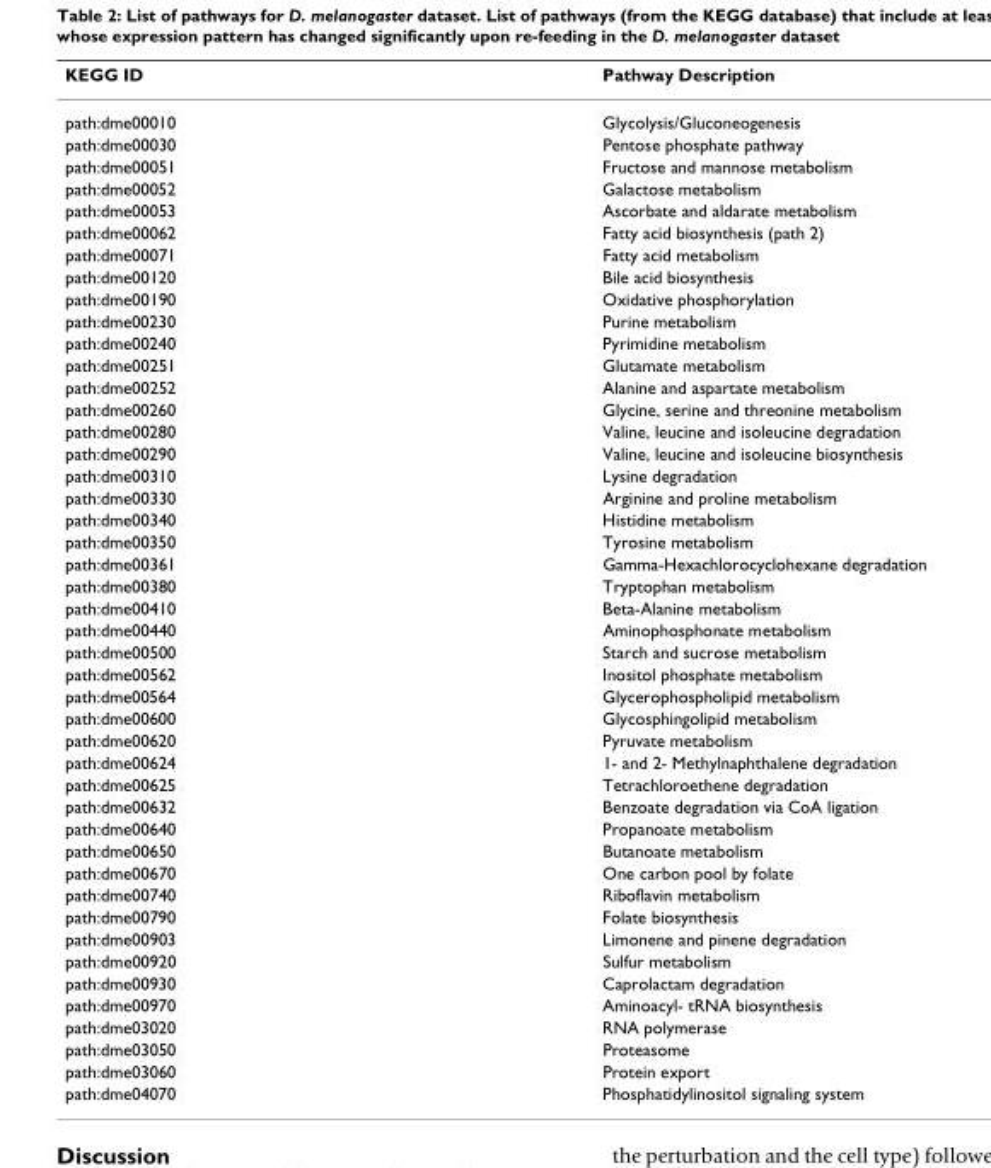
<table><thead><tr><td>KEGG ID</td><td>Pathway Description</td></tr></thead><tbody><tr><td>path:dme00010</td><td>Glycolysis/Gluconeogenesis</td></tr><tr><td>path:dme00030</td><td>Pentose phosphate pathway</td></tr><tr><td>path:dme00051</td><td>Fructose and mannose metabolism</td></tr><tr><td>path:dme00052</td><td>Galactose metabolism</td></tr><tr><td>path:dme00053</td><td>Ascorbate and aldarate metabolism</td></tr><tr><td>path:dme00062</td><td>Fatty acid biosynthesis (path 2)</td></tr><tr><td>path:dme00071</td><td>Fatty acid metabolism</td></tr><tr><td>path:dme00120</td><td>Bile acid biosynthesis</td></tr><tr><td>path:dme00190</td><td>Oxidative phosphorylation</td></tr><tr><td>path:dme00230</td><td>Purine metabolism</td></tr><tr><td>path:dme00240</td><td>Pyrimidine metabolism</td></tr><tr><td>path:dme00251</td><td>Glutamate metabolism</td></tr><tr><td>path:dme00252</td><td>Alanine and aspartate metabolism</td></tr><tr><td>path:dme00260</td><td>Glycine, serine and threonine metabolism</td></tr><tr><td>path:dme00280</td><td>Valine, leucine and isoleucine degradation</td></tr><tr><td>path:dme00290</td><td>Valine, leucine and isoleucine biosynthesis</td></tr><tr><td>path:dme00310</td><td>Lysine degradation</td></tr><tr><td>path:dme00330</td><td>Arginine and proline metabolism</td></tr><tr><td>path:dme00340</td><td>Histidine metabolism</td></tr><tr><td>path:dme00350</td><td>Tyrosine metabolism</td></tr><tr><td>path:dme00361</td><td>Gamma-Hexachlorocyclohexane degradation</td></tr><tr><td>path:dme00380</td><td>Tryptophan metabolism</td></tr><tr><td>path:dme00410</td><td>Beta-Alanine metabolism</td></tr><tr><td>path:dme00440</td><td>Aminophosphonate metabolism</td></tr><tr><td>path:dme00500</td><td>Starch and sucrose metabolism</td></tr><tr><td>path:dme00562</td><td>Inositol phosphate metabolism</td></tr><tr><td>path:dme00564</td><td>Glycerophospholipid metabolism</td></tr><tr><td>path:dme00600</td><td>Glycosphingolipid metabolism</td></tr><tr><td>path:dme00620</td><td>Pyruvate metabolism</td></tr><tr><td>path:dme00624</td><td>1- and 2- Methylnaphthalene degradation</td></tr><tr><td>path:dme00625</td><td>Tetrachloroethene degradation</td></tr><tr><td>path:dme00632</td><td>Benzoate degradation via CoA ligation</td></tr><tr><td>path:dme00640</td><td>Propanoate metabolism</td></tr><tr><td>path:dme00650</td><td>Butanoate metabolism</td></tr><tr><td>path:dme00670</td><td>One carbon pool by folate</td></tr><tr><td>path:dme00740</td><td>Riboflavin metabolism</td></tr><tr><td>path:dme00790</td><td>Folate biosynthesis</td></tr><tr><td>path:dme00903</td><td>Limonene and pinene degradation</td></tr><tr><td>path:dme00920</td><td>Sulfur metabolism</td></tr><tr><td>path:dme00930</td><td>Caprolactam degradation</td></tr><tr><td>path:dme00970</td><td>Aminoacyl- tRNA biosynthesis</td></tr><tr><td>path:dme03020</td><td>RNA polymerase</td></tr><tr><td>path:dme03050</td><td>Proteasome</td></tr><tr><td>path:dme03060</td><td>Protein export</td></tr><tr><td>path:dme04070</td><td>Phosphatidylinositol signaling system</td></tr></tbody></table>